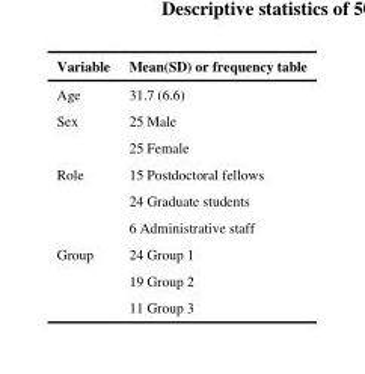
<table><thead><tr><td>Variable</td><td>Mean(SD) or frequency table</td></tr></thead><tbody><tr><td>Age</td><td>31.7 (6.6)</td></tr><tr><td rowspan="2">Sex</td><td>25 Male</td></tr><tr><td>25 Female</td></tr><tr><td rowspan="3">Role</td><td>15 Postdoctoral fellows</td></tr><tr><td>24 Graduate students</td></tr><tr><td>6 Administrative staff</td></tr><tr><td rowspan="3">Group</td><td>24 Group 1</td></tr><tr><td>19 Group 2</td></tr><tr><td>11 Group 3</td></tr></tbody></table>